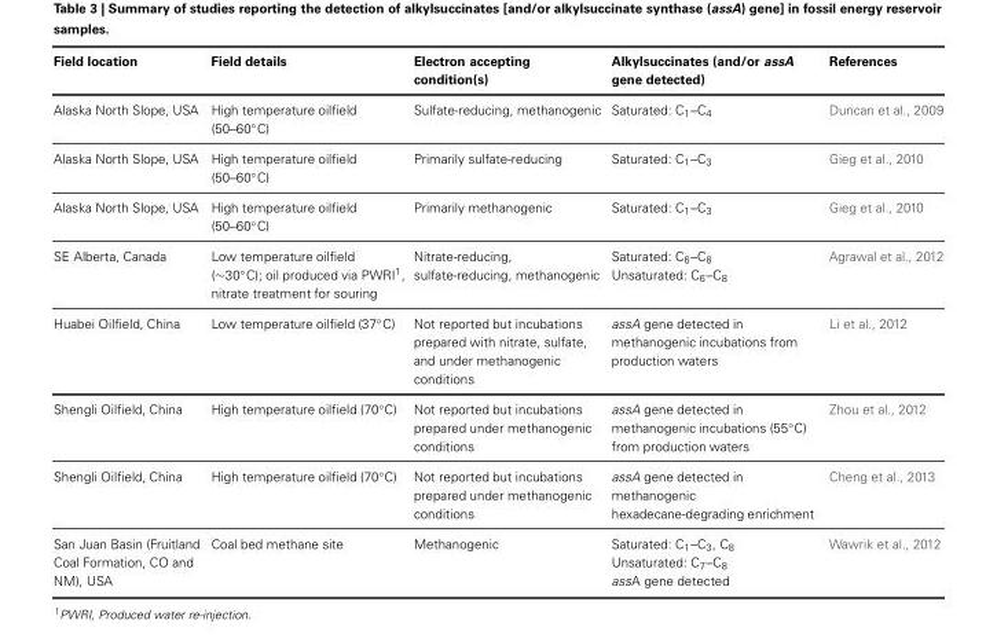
<table><thead><tr><td>Field location</td><td>Field details</td><td>Electron accepting condition(s)</td><td>Alkylsuccinates (and/or assA gene detected)</td><td>References</td></tr></thead><tbody><tr><td>Alaska North Slope, USA</td><td>High temperature oilfield (50–60◦C)</td><td>Sulfate-reducing, methanogenic</td><td>Saturated: C<sub>1</sub>–C<sub>4</sub></td><td>Duncan et al., 2009</td></tr><tr><td>Alaska North Slope, USA</td><td>High temperature oilfield (50–60◦C)</td><td>Primarily sulfate-reducing</td><td>Saturated: C<sub>1</sub>–C<sub>3</sub></td><td>Gieg et al., 2010</td></tr><tr><td>Alaska North Slope, USA</td><td>High temperature oilfield (50–60◦C)</td><td>Primarily methanogenic</td><td>Saturated: C<sub>1</sub>–C<sub>3</sub></td><td>Gieg et al., 2010</td></tr><tr><td>SE Alberta, Canada</td><td>Low temperature oilfield (∼30◦C); oil produced via PWRI1, nitrate treatment for souring</td><td>Nitrate-reducing, sulfate-reducing, methanogenic</td><td>Saturated: C<sub>6</sub>–C<sub>8</sub> Unsaturated: C<sub>6</sub>–C<sub>8</sub></td><td>Agrawal et al., 2012</td></tr><tr><td>Huabei Oilfield, China</td><td>Low temperature oilfield (37◦C)</td><td>Not reported but incubations prepared with nitrate, sulfate, and under methanogenic conditions</td><td>assA gene detected in methanogenic incubations from production waters</td><td>Li et al., 2012</td></tr><tr><td>Shengli Oilfield, China</td><td>High temperature oilfield (70◦C)</td><td>Not reported but incubations prepared under methanogenic conditions</td><td>assA gene detected in methanogenic incubations (55◦C) from production waters</td><td>Zhou et al., 2012</td></tr><tr><td>Shengli Oilfield, China</td><td>High temperature oilfield (70◦C)</td><td>Not reported but incubations prepared under methanogenic conditions</td><td>assA gene detected in methanogenic hexadecane-degrading enrichment</td><td>Cheng et al., 2013</td></tr><tr><td>San Juan Basin (Fruitland Coal Formation, CO and NM), USA</td><td>Coal bed methane site</td><td>Methanogenic</td><td>Saturated: C<sub>1</sub>–C<sub>3</sub>, C<sub>8</sub> Unsaturated: C<sub>7</sub>–C<sub>8</sub> assA gene detected</td><td>Wawrik et al., 2012</td></tr></tbody></table>